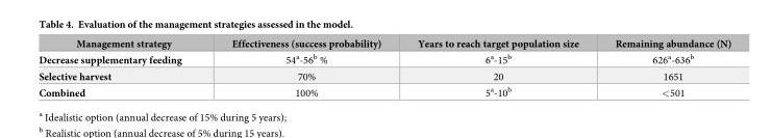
<table><thead><tr><td>Management strategy</td><td>Effectiveness (success probability)</td><td>Years to reach target population size</td><td>Remaining abundance (N)</td></tr></thead><tbody><tr><td>Decrease supplementary feeding</td><td>54<sup>a</sup>-56<sup>b</sup> %</td><td>6<sup>a</sup>-15<sup>b</sup></td><td>626<sup>a</sup>-636<sup>b</sup></td></tr><tr><td>Selective harvest</td><td>70%</td><td>20</td><td>1651</td></tr><tr><td>Combined</td><td>100%</td><td>5<sup>a</sup>-10<sup>b</sup></td><td>&lt;501</td></tr></tbody></table>